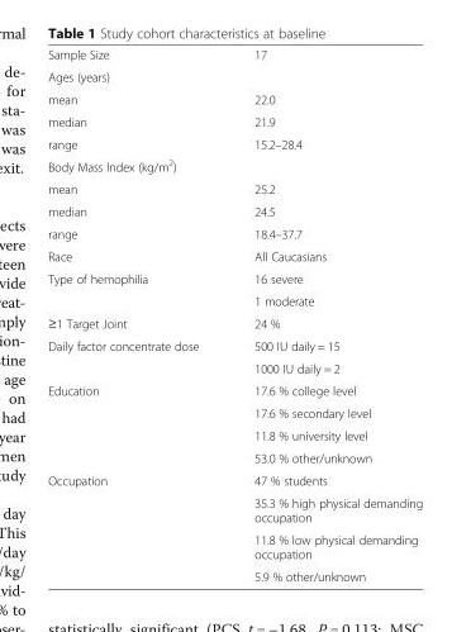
<table><tbody><tr><td>Sample Size</td><td>17</td></tr><tr><td colspan="2">Ages (years)</td></tr><tr><td>mean</td><td>22.0</td></tr><tr><td>median</td><td>21.9</td></tr><tr><td>range</td><td>15.2–28.4</td></tr><tr><td colspan="2">Body Mass Index (kg/m<sup>2</sup>)</td></tr><tr><td>mean</td><td>25.2</td></tr><tr><td>median</td><td>24.5</td></tr><tr><td>range</td><td>18.4–37.7</td></tr><tr><td>Race</td><td>All Caucasians</td></tr><tr><td rowspan="2">Type of hemophilia</td><td>16 severe</td></tr><tr><td>1 moderate</td></tr><tr><td>≥1 Target Joint</td><td>24 %</td></tr><tr><td rowspan="2">Daily factor concentrate dose</td><td>500 IU daily = 15</td></tr><tr><td>1000 IU daily = 2</td></tr><tr><td rowspan="4">Education</td><td>17.6 % college level</td></tr><tr><td>17.6 % secondary level</td></tr><tr><td>11.8 % university level</td></tr><tr><td>53.0 % other/unknown</td></tr><tr><td rowspan="4">Occupation</td><td>47 % students</td></tr><tr><td>35.3 % high physical demanding occupation</td></tr><tr><td>11.8 % low physical demanding occupation</td></tr><tr><td>5.9 % other/unknown</td></tr></tbody></table>